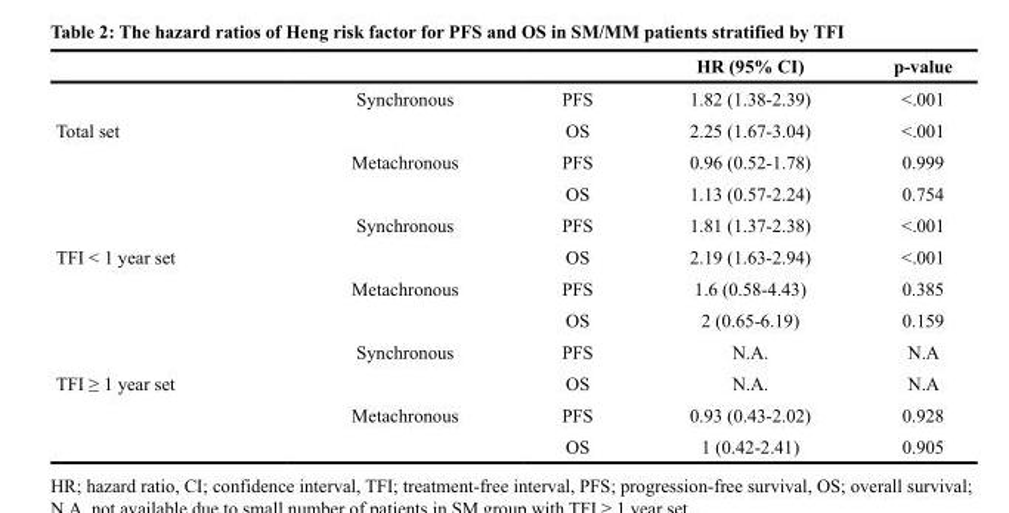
<table><thead><tr><td></td><td></td><td></td><td>HR (95% CI)</td><td>p-value</td></tr></thead><tbody><tr><td rowspan="4">Total set</td><td>Synchronous</td><td>PFS</td><td>1.82 (1.38-2.39)</td><td>&lt;.001</td></tr><tr><td></td><td>OS</td><td>2.25 (1.67-3.04)</td><td>&lt;.001</td></tr><tr><td>Metachronous</td><td>PFS</td><td>0.96 (0.52-1.78)</td><td>0.999</td></tr><tr><td></td><td>OS</td><td>1.13 (0.57-2.24)</td><td>0.754</td></tr><tr><td rowspan="4">TFI &lt; 1 year set</td><td>Synchronous</td><td>PFS</td><td>1.81 (1.37-2.38)</td><td>&lt;.001</td></tr><tr><td></td><td>OS</td><td>2.19 (1.63-2.94)</td><td>&lt;.001</td></tr><tr><td>Metachronous</td><td>PFS</td><td>1.6 (0.58-4.43)</td><td>0.385</td></tr><tr><td></td><td>OS</td><td>2 (0.65-6.19)</td><td>0.159</td></tr><tr><td rowspan="4">TFI ≥ 1 year set</td><td>Synchronous</td><td>PFS</td><td>N.A.</td><td>N.A</td></tr><tr><td></td><td>OS</td><td>N.A.</td><td>N.A</td></tr><tr><td>Metachronous</td><td>PFS</td><td>0.93 (0.43-2.02)</td><td>0.928</td></tr><tr><td></td><td>OS</td><td>1 (0.42-2.41)</td><td>0.905</td></tr></tbody></table>